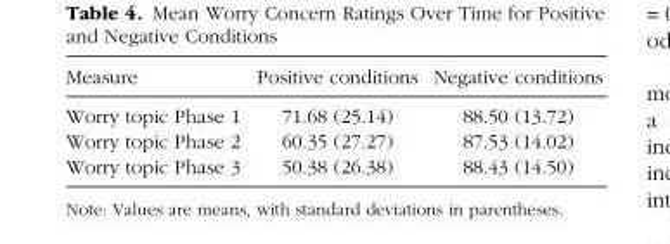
<table><thead><tr><td>Measure</td><td>Positive conditions</td><td>Negative conditions</td></tr></thead><tbody><tr><td>Worry topic Phase 1</td><td>71.68 (25.14)</td><td>88.50 (13.72)</td></tr><tr><td>Worry topic Phase 2</td><td>60.35 (27.27)</td><td>87.53 (14.02)</td></tr><tr><td>Worry topic Phase 3</td><td>50.38 (26.38)</td><td>88.43 (14.50)</td></tr></tbody></table>